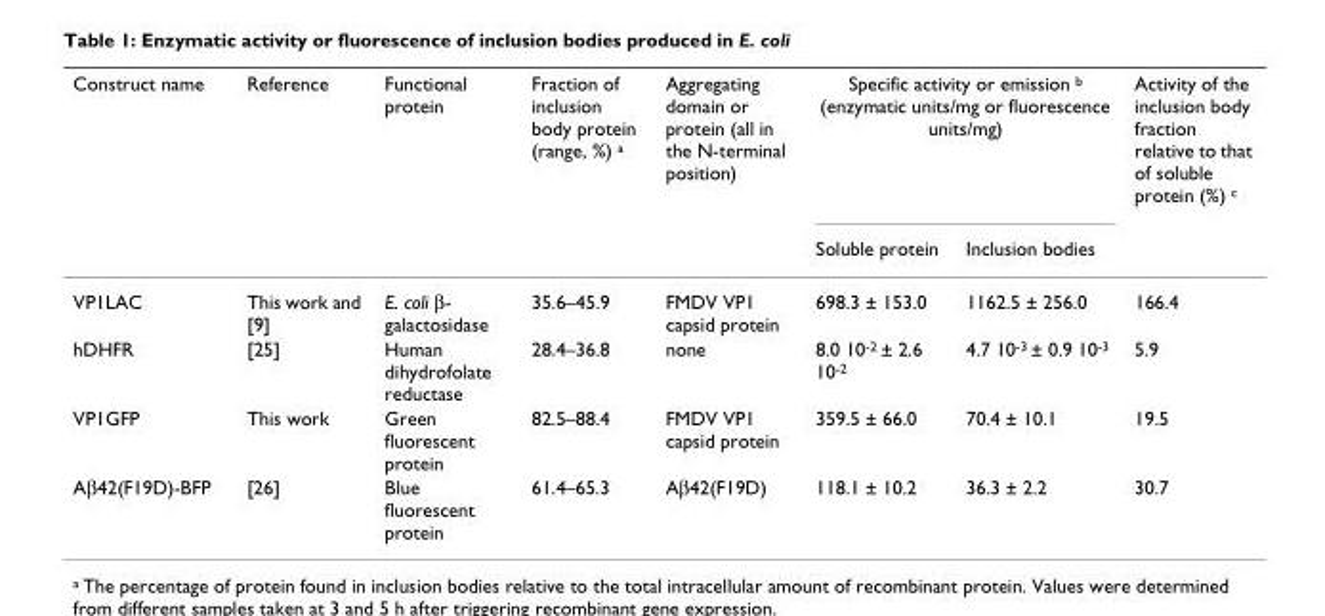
<table><thead><tr><td rowspan="2">Construct name</td><td rowspan="2">Reference</td><td rowspan="2">Functional protein</td><td rowspan="2">Fraction of inclusion body protein (range, %) <sup>a</sup></td><td rowspan="2">Aggregating domain or protein (all in the N-terminal position)</td><td colspan="2">Specific activity or emission <sup>b</sup> (enzymatic units/mg or fluorescence units/mg)</td><td rowspan="2">Activity of the inclusion body fraction relative to that of soluble protein (%) <sup>c</sup></td></tr><tr><td>Soluble protein</td><td>Inclusion bodies</td></tr></thead><tbody><tr><td>VP1LAC</td><td>This work and [9]</td><td>E. coli β- galactosidase</td><td>35.6–45.9</td><td>FMDV VP1 capsid protein</td><td>698.3 ± 153.0</td><td>1162.5 ± 256.0</td><td>166.4</td></tr><tr><td>hDHFR</td><td>[25]</td><td>Human dihydrofolate reductase</td><td>28.4–36.8</td><td>none</td><td>8.0 10<sup>-2</sup> ± 2.6 10<sup>-2</sup></td><td>4.7 10<sup>-3</sup> ± 0.9 10<sup>-3</sup></td><td>5.9</td></tr><tr><td>VP1GFP</td><td>This work</td><td>Green fluorescent protein</td><td>82.5–88.4</td><td>FMDV VP1 capsid protein</td><td>359.5 ± 66.0</td><td>70.4 ± 10.1</td><td>19.5</td></tr><tr><td>Aβ42(F19D)-BFP</td><td>[26]</td><td>Blue fluorescent protein</td><td>61.4–65.3</td><td>Aβ42(F19D)</td><td>118.1 ± 10.2</td><td>36.3 ± 2.2</td><td>30.7</td></tr></tbody></table>